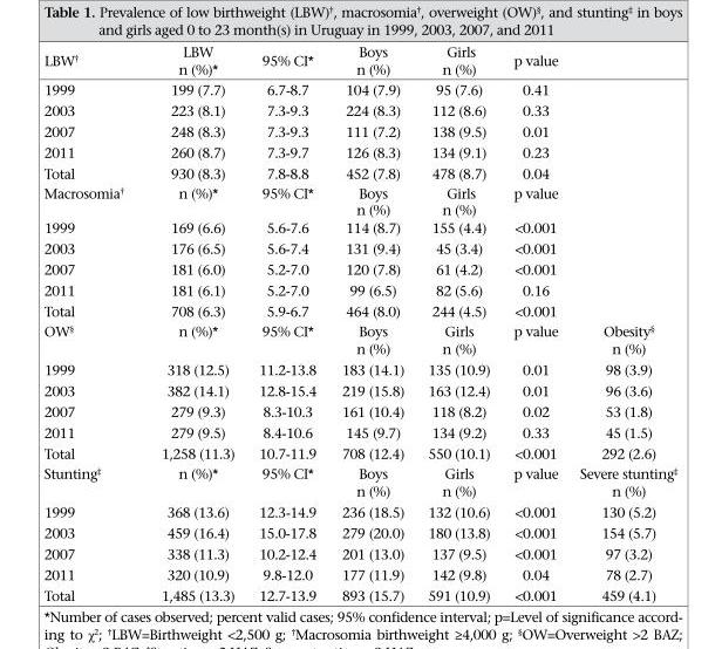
<table><thead><tr><td>LBW†</td><td>LBW n (%)*</td><td>95% CI*</td><td>Boys n (%)</td><td>Girls n (%)</td><td>p value</td><td></td></tr></thead><tbody><tr><td>1999</td><td>199 (7.7)</td><td>6.7-8.7</td><td>104 (7.9)</td><td>95 (7.6)</td><td>0.41</td><td></td></tr><tr><td>2003</td><td>223 (8.1)</td><td>7.3-9.3</td><td>224 (8.3)</td><td>112 (8.6)</td><td>0.33</td><td></td></tr><tr><td>2007</td><td>248 (8.3)</td><td>7.3-9.3</td><td>111 (7.2)</td><td>138 (9.5)</td><td>0.01</td><td></td></tr><tr><td>2011</td><td>260 (8.7)</td><td>7.3-9.7</td><td>126 (8.3)</td><td>134 (9.1)</td><td>0.23</td><td></td></tr><tr><td>Total</td><td>930 (8.3)</td><td>7.8-8.8</td><td>452 (7.8)</td><td>478 (8.7)</td><td>0.04</td><td></td></tr><tr><td>Macrosomia†</td><td>n (%)*</td><td>95% CI*</td><td>Boys n (%)</td><td>Girls n (%)</td><td>p value</td><td></td></tr><tr><td>1999</td><td>169 (6.6)</td><td>5.6-7.6</td><td>114 (8.7)</td><td>155 (4.4)</td><td>&lt;0.001</td><td></td></tr><tr><td>2003</td><td>176 (6.5)</td><td>5.6-7.4</td><td>131 (9.4)</td><td>45 (3.4)</td><td>&lt;0.001</td><td></td></tr><tr><td>2007</td><td>181 (6.0)</td><td>5.2-7.0</td><td>120 (7.8)</td><td>61 (4.2)</td><td>&lt;0.001</td><td></td></tr><tr><td>2011</td><td>181 (6.1)</td><td>5.2-7.0</td><td>99 (6.5)</td><td>82 (5.6)</td><td>0.16</td><td></td></tr><tr><td>Total</td><td>708 (6.3)</td><td>5.9-6.7</td><td>464 (8.0)</td><td>244 (4.5)</td><td>&lt;0.001</td><td></td></tr><tr><td>OW§</td><td>n (%)*</td><td>95% CI*</td><td>Boys n (%)</td><td>Girls n (%)</td><td>p value</td><td>Obesity§ n (%)</td></tr><tr><td>1999</td><td>318 (12.5)</td><td>11.2-13.8</td><td>183 (14.1)</td><td>135 (10.9)</td><td>0.01</td><td>98 (3.9)</td></tr><tr><td>2003</td><td>382 (14.1)</td><td>12.8-15.4</td><td>219 (15.8)</td><td>163 (12.4)</td><td>0.01</td><td>96 (3.6)</td></tr><tr><td>2007</td><td>279 (9.3)</td><td>8.3-10.3</td><td>161 (10.4)</td><td>118 (8.2)</td><td>0.02</td><td>53 (1.8)</td></tr><tr><td>2011</td><td>279 (9.5)</td><td>8.4-10.6</td><td>145 (9.7)</td><td>134 (9.2)</td><td>0.33</td><td>45 (1.5)</td></tr><tr><td>Total</td><td>1,258 (11.3)</td><td>10.7-11.9</td><td>708 (12.4)</td><td>550 (10.1)</td><td>&lt;0.001</td><td>292 (2.6)</td></tr><tr><td>Stunting‡</td><td>n (%)*</td><td>95% CI*</td><td>Boys n (%)</td><td>Girls n (%)</td><td>p value</td><td>Severe stunting‡ n (%)</td></tr><tr><td>1999</td><td>368 (13.6)</td><td>12.3-14.9</td><td>236 (18.5)</td><td>132 (10.6)</td><td>&lt;0.001</td><td>130 (5.2)</td></tr><tr><td>2003</td><td>459 (16.4)</td><td>15.0-17.8</td><td>279 (20.0)</td><td>180 (13.8)</td><td>&lt;0.001</td><td>154 (5.7)</td></tr><tr><td>2007</td><td>338 (11.3)</td><td>10.2-12.4</td><td>201 (13.0)</td><td>137 (9.5)</td><td>&lt;0.001</td><td>97 (3.2)</td></tr><tr><td>2011</td><td>320 (10.9)</td><td>9.8-12.0</td><td>177 (11.9)</td><td>142 (9.8)</td><td>0.04</td><td>78 (2.7)</td></tr><tr><td>Total</td><td>1,485 (13.3)</td><td>12.7-13.9</td><td>893 (15.7)</td><td>591 (10.9)</td><td>&lt;0.001</td><td>459 (4.1)</td></tr></tbody></table>